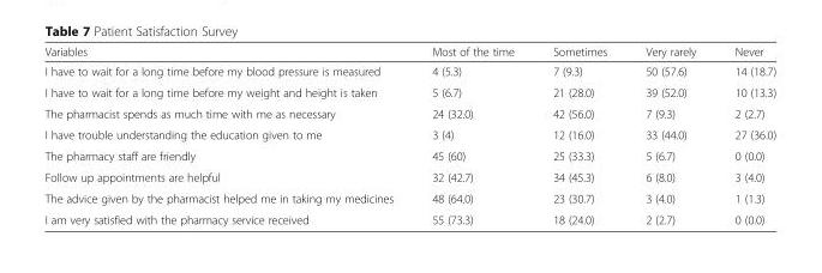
<table><thead><tr><td>Variables</td><td>Most of the time</td><td>Sometimes</td><td>Very rarely</td><td>Never</td></tr></thead><tbody><tr><td>I have to wait for a long time before my blood pressure is measured</td><td>4 (5.3)</td><td>7 (9.3)</td><td>50 (57.6)</td><td>14 (18.7)</td></tr><tr><td>I have to wait for a long time before my weight and height is taken</td><td>5 (6.7)</td><td>21 (28.0)</td><td>39 (52.0)</td><td>10 (13.3)</td></tr><tr><td>The pharmacist spends as much time with me as necessary</td><td>24 (32.0)</td><td>42 (56.0)</td><td>7 (9.3)</td><td>2 (2.7)</td></tr><tr><td>I have trouble understanding the education given to me</td><td>3 (4)</td><td>12 (16.0)</td><td>33 (44.0)</td><td>27 (36.0)</td></tr><tr><td>The pharmacy staff are friendly</td><td>45 (60)</td><td>25 (33.3)</td><td>5 (6.7)</td><td>0 (0.0)</td></tr><tr><td>Follow up appointments are helpful</td><td>32 (42.7)</td><td>34 (45.3)</td><td>6 (8.0)</td><td>3 (4.0)</td></tr><tr><td>The advice given by the pharmacist helped me in taking my medicines</td><td>48 (64.0)</td><td>23 (30.7)</td><td>3 (4.0)</td><td>1 (1.3)</td></tr><tr><td>I am very satisfied with the pharmacy service received</td><td>55 (73.3)</td><td>18 (24.0)</td><td>2 (2.7)</td><td>0 (0.0)</td></tr></tbody></table>